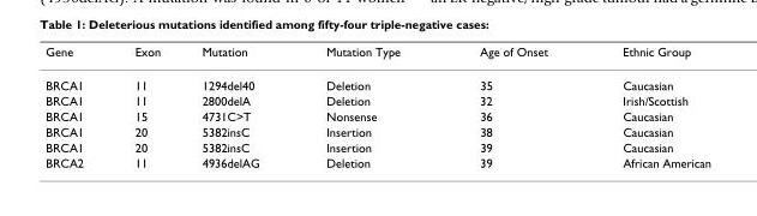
<table><thead><tr><td>Gene</td><td>Exon</td><td>Mutation</td><td>Mutation Type</td><td>Age of Onset</td><td>Ethnic Group</td></tr></thead><tbody><tr><td>BRCA1</td><td>11</td><td>1294del40</td><td>Deletion</td><td>35</td><td>Caucasian</td></tr><tr><td>BRCA1</td><td>11</td><td>2800delA</td><td>Deletion</td><td>32</td><td>Irish/Scottish</td></tr><tr><td>BRCA1</td><td>15</td><td>4731C&gt;T</td><td>Nonsense</td><td>36</td><td>Caucasian</td></tr><tr><td>BRCA1</td><td>20</td><td>5382insC</td><td>Insertion</td><td>38</td><td>Caucasian</td></tr><tr><td>BRCA1</td><td>20</td><td>5382insC</td><td>Insertion</td><td>39</td><td>Caucasian</td></tr><tr><td>BRCA2</td><td>11</td><td>4936delAG</td><td>Deletion</td><td>39</td><td>African American</td></tr></tbody></table>